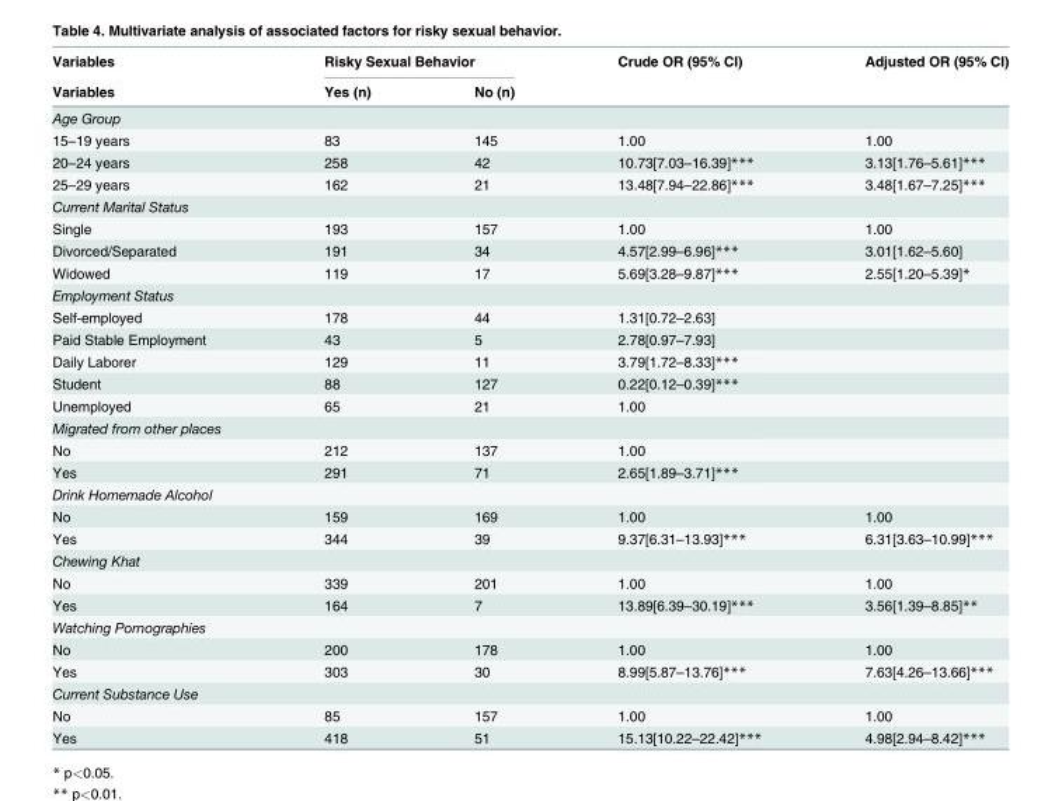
<table><thead><tr><td rowspan="2">Variables Variables</td><td colspan="2">Risky Sexual Behavior</td><td rowspan="2">Crude OR (95% CI)</td><td rowspan="2">Adjusted OR (95% CI)</td></tr><tr><td>Yes (n)</td><td>No (n)</td></tr></thead><tbody><tr><td colspan="5">Age Group</td></tr><tr><td>15–19 years</td><td>83</td><td>145</td><td>1.00</td><td>1.00</td></tr><tr><td>20–24 years</td><td>258</td><td>42</td><td>10.73[7.03–16.39]***</td><td>3.13[1.76–5.61]***</td></tr><tr><td>25–29 years</td><td>162</td><td>21</td><td>13.48[7.94–22.86]***</td><td>3.48[1.67–7.25]***</td></tr><tr><td colspan="5">Current Marital Status</td></tr><tr><td>Single</td><td>193</td><td>157</td><td>1.00</td><td>1.00</td></tr><tr><td>Divorced/Separated</td><td>191</td><td>34</td><td>4.57[2.99–6.96]***</td><td>3.01[1.62–5.60]</td></tr><tr><td>Widowed</td><td>119</td><td>17</td><td>5.69[3.28–9.87]***</td><td>2.55[1.20–5.39]*</td></tr><tr><td colspan="5">Employment Status</td></tr><tr><td>Self-employed</td><td>178</td><td>44</td><td>1.31[0.72–2.63]</td><td></td></tr><tr><td>Paid Stable Employment</td><td>43</td><td>5</td><td>2.78[0.97–7.93]</td><td></td></tr><tr><td>Daily Laborer</td><td>129</td><td>11</td><td>3.79[1.72–8.33]***</td><td></td></tr><tr><td>Student</td><td>88</td><td>127</td><td>0.22[0.12–0.39]***</td><td></td></tr><tr><td>Unemployed</td><td>65</td><td>21</td><td>1.00</td><td></td></tr><tr><td colspan="5">Migrated from other places</td></tr><tr><td>No</td><td>212</td><td>137</td><td>1.00</td><td></td></tr><tr><td>Yes</td><td>291</td><td>71</td><td>2.65[1.89–3.71]***</td><td></td></tr><tr><td colspan="5">Drink Homemade Alcohol</td></tr><tr><td>No</td><td>159</td><td>169</td><td>1.00</td><td>1.00</td></tr><tr><td>Yes</td><td>344</td><td>39</td><td>9.37[6.31–13.93]***</td><td>6.31[3.63–10.99]***</td></tr><tr><td colspan="5">Chewing Khat</td></tr><tr><td>No</td><td>339</td><td>201</td><td>1.00</td><td>1.00</td></tr><tr><td>Yes</td><td>164</td><td>7</td><td>13.89[6.39–30.19]***</td><td>3.56[1.39–8.85]**</td></tr><tr><td colspan="5">Watching Pornographies</td></tr><tr><td>No</td><td>200</td><td>178</td><td>1.00</td><td>1.00</td></tr><tr><td>Yes</td><td>303</td><td>30</td><td>8.99[5.87–13.76]***</td><td>7.63[4.26–13.66]***</td></tr><tr><td colspan="5">Current Substance Use</td></tr><tr><td>No</td><td>85</td><td>157</td><td>1.00</td><td>1.00</td></tr><tr><td>Yes</td><td>418</td><td>51</td><td>15.13[10.22–22.42]***</td><td>4.98[2.94–8.42]***</td></tr></tbody></table>